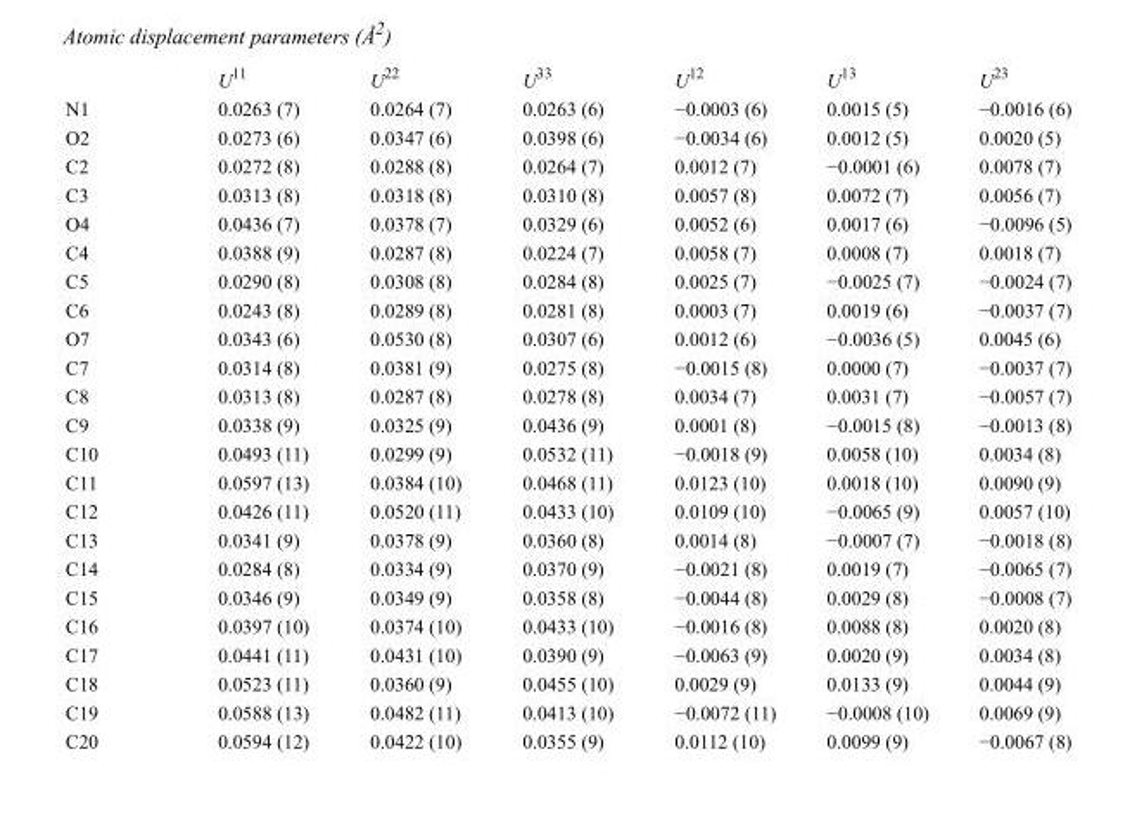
<table><thead><tr><td></td><td>U<sup>11</sup></td><td>U<sup>22</sup></td><td>U<sup>33</sup></td><td>U<sup>12</sup></td><td>U<sup>13</sup></td><td>U<sup>23</sup></td></tr></thead><tbody><tr><td>N1</td><td>0.0263 (7)</td><td>0.0264 (7)</td><td>0.0263 (6)</td><td>−0.0003 (6)</td><td>0.0015 (5)</td><td>−0.0016 (6)</td></tr><tr><td>O2</td><td>0.0273 (6)</td><td>0.0347 (6)</td><td>0.0398 (6)</td><td>−0.0034 (6)</td><td>0.0012 (5)</td><td>0.0020 (5)</td></tr><tr><td>C2</td><td>0.0272 (8)</td><td>0.0288 (8)</td><td>0.0264 (7)</td><td>0.0012 (7)</td><td>−0.0001 (6)</td><td>0.0078 (7)</td></tr><tr><td>C3</td><td>0.0313 (8)</td><td>0.0318 (8)</td><td>0.0310 (8)</td><td>0.0057 (8)</td><td>0.0072 (7)</td><td>0.0056 (7)</td></tr><tr><td>O4</td><td>0.0436 (7)</td><td>0.0378 (7)</td><td>0.0329 (6)</td><td>0.0052 (6)</td><td>0.0017 (6)</td><td>−0.0096 (5)</td></tr><tr><td>C4</td><td>0.0388 (9)</td><td>0.0287 (8)</td><td>0.0224 (7)</td><td>0.0058 (7)</td><td>0.0008 (7)</td><td>0.0018 (7)</td></tr><tr><td>C5</td><td>0.0290 (8)</td><td>0.0308 (8)</td><td>0.0284 (8)</td><td>0.0025 (7)</td><td>−0.0025 (7)</td><td>−0.0024 (7)</td></tr><tr><td>C6</td><td>0.0243 (8)</td><td>0.0289 (8)</td><td>0.0281 (8)</td><td>0.0003 (7)</td><td>0.0019 (6)</td><td>−0.0037 (7)</td></tr><tr><td>O7</td><td>0.0343 (6)</td><td>0.0530 (8)</td><td>0.0307 (6)</td><td>0.0012 (6)</td><td>−0.0036 (5)</td><td>0.0045 (6)</td></tr><tr><td>C7</td><td>0.0314 (8)</td><td>0.0381 (9)</td><td>0.0275 (8)</td><td>−0.0015 (8)</td><td>0.0000 (7)</td><td>−0.0037 (7)</td></tr><tr><td>C8</td><td>0.0313 (8)</td><td>0.0287 (8)</td><td>0.0278 (8)</td><td>0.0034 (7)</td><td>0.0031 (7)</td><td>−0.0057 (7)</td></tr><tr><td>C9</td><td>0.0338 (9)</td><td>0.0325 (9)</td><td>0.0436 (9)</td><td>0.0001 (8)</td><td>−0.0015 (8)</td><td>−0.0013 (8)</td></tr><tr><td>C10</td><td>0.0493 (11)</td><td>0.0299 (9)</td><td>0.0532 (11)</td><td>−0.0018 (9)</td><td>0.0058 (10)</td><td>0.0034 (8)</td></tr><tr><td>C11</td><td>0.0597 (13)</td><td>0.0384 (10)</td><td>0.0468 (11)</td><td>0.0123 (10)</td><td>0.0018 (10)</td><td>0.0090 (9)</td></tr><tr><td>C12</td><td>0.0426 (11)</td><td>0.0520 (11)</td><td>0.0433 (10)</td><td>0.0109 (10)</td><td>−0.0065 (9)</td><td>0.0057 (10)</td></tr><tr><td>C13</td><td>0.0341 (9)</td><td>0.0378 (9)</td><td>0.0360 (8)</td><td>0.0014 (8)</td><td>−0.0007 (7)</td><td>−0.0018 (8)</td></tr><tr><td>C14</td><td>0.0284 (8)</td><td>0.0334 (9)</td><td>0.0370 (9)</td><td>−0.0021 (8)</td><td>0.0019 (7)</td><td>−0.0065 (7)</td></tr><tr><td>C15</td><td>0.0346 (9)</td><td>0.0349 (9)</td><td>0.0358 (8)</td><td>−0.0044 (8)</td><td>0.0029 (8)</td><td>−0.0008 (7)</td></tr><tr><td>C16</td><td>0.0397 (10)</td><td>0.0374 (10)</td><td>0.0433 (10)</td><td>−0.0016 (8)</td><td>0.0088 (8)</td><td>0.0020 (8)</td></tr><tr><td>C17</td><td>0.0441 (11)</td><td>0.0431 (10)</td><td>0.0390 (9)</td><td>−0.0063 (9)</td><td>0.0020 (9)</td><td>0.0034 (8)</td></tr><tr><td>C18</td><td>0.0523 (11)</td><td>0.0360 (9)</td><td>0.0455 (10)</td><td>0.0029 (9)</td><td>0.0133 (9)</td><td>0.0044 (9)</td></tr><tr><td>C19</td><td>0.0588 (13)</td><td>0.0482 (11)</td><td>0.0413 (10)</td><td>−0.0072 (11)</td><td>−0.0008 (10)</td><td>0.0069 (9)</td></tr><tr><td>C20</td><td>0.0594 (12)</td><td>0.0422 (10)</td><td>0.0355 (9)</td><td>0.0112 (10)</td><td>0.0099 (9)</td><td>−0.0067 (8)</td></tr></tbody></table>